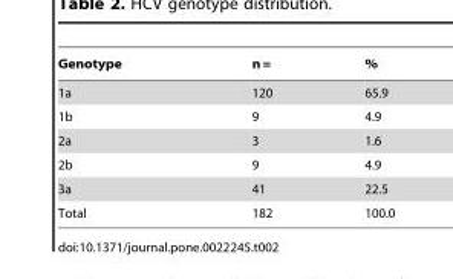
<table><thead><tr><td>Genotype</td><td>n =</td><td>%</td></tr></thead><tbody><tr><td>1a</td><td>120</td><td>65.9</td></tr><tr><td>1b</td><td>9</td><td>4.9</td></tr><tr><td>2a</td><td>3</td><td>1.6</td></tr><tr><td>2b</td><td>9</td><td>4.9</td></tr><tr><td>3a</td><td>41</td><td>22.5</td></tr><tr><td>Total</td><td>182</td><td>100.0</td></tr></tbody></table>